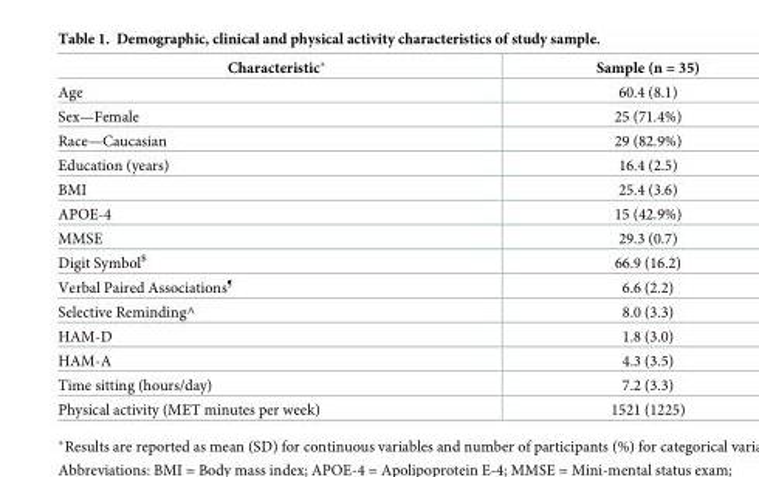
<table><thead><tr><td>Characteristic*</td><td>Sample (n = 35)</td></tr></thead><tbody><tr><td>Age</td><td>60.4 (8.1)</td></tr><tr><td>Sex—Female</td><td>25 (71.4%)</td></tr><tr><td>Race—Caucasian</td><td>29 (82.9%)</td></tr><tr><td>Education (years)</td><td>16.4 (2.5)</td></tr><tr><td>BMI</td><td>25.4 (3.6)</td></tr><tr><td>APOE-4</td><td>15 (42.9%)</td></tr><tr><td>MMSE</td><td>29.3 (0.7)</td></tr><tr><td>Digit Symbol<sup>$</sup></td><td>66.9 (16.2)</td></tr><tr><td>Verbal Paired Associations<sup>¶</sup></td><td>6.6 (2.2)</td></tr><tr><td>Selective Reminding^</td><td>8.0 (3.3)</td></tr><tr><td>HAM-D</td><td>1.8 (3.0)</td></tr><tr><td>HAM-A</td><td>4.3 (3.5)</td></tr><tr><td>Time sitting (hours/day)</td><td>7.2 (3.3)</td></tr><tr><td>Physical activity (MET minutes per week)</td><td>1521 (1225)</td></tr></tbody></table>